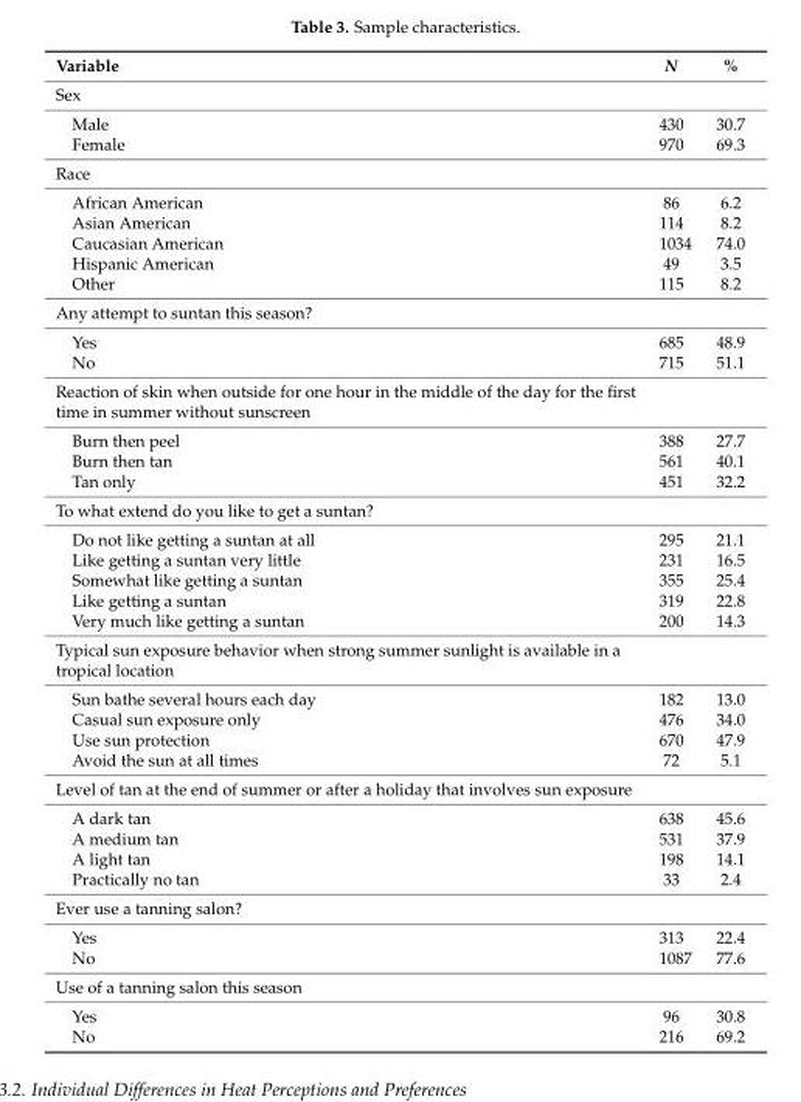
<table><thead><tr><td>Variable</td><td>N</td><td>%</td></tr></thead><tbody><tr><td colspan="3">Sex</td></tr><tr><td>Male</td><td>430</td><td>30.7</td></tr><tr><td>Female</td><td>970</td><td>69.3</td></tr><tr><td colspan="3">Race</td></tr><tr><td>African American</td><td>86</td><td>6.2</td></tr><tr><td>Asian American</td><td>114</td><td>8.2</td></tr><tr><td>Caucasian American</td><td>1034</td><td>74.0</td></tr><tr><td>Hispanic American</td><td>49</td><td>3.5</td></tr><tr><td>Other</td><td>115</td><td>8.2</td></tr><tr><td colspan="3">Any attempt to suntan this season?</td></tr><tr><td>Yes</td><td>685</td><td>48.9</td></tr><tr><td>No</td><td>715</td><td>51.1</td></tr><tr><td colspan="3">Reaction of skin when outside for one hour in the middle of the day for the first time in summer without sunscreen</td></tr><tr><td>Burn then peel</td><td>388</td><td>27.7</td></tr><tr><td>Burn then tan</td><td>561</td><td>40.1</td></tr><tr><td>Tan only</td><td>451</td><td>32.2</td></tr><tr><td colspan="3">To what extend do you like to get a suntan?</td></tr><tr><td>Do not like getting a suntan at all</td><td>295</td><td>21.1</td></tr><tr><td>Like getting a suntan very little</td><td>231</td><td>16.5</td></tr><tr><td>Somewhat like getting a suntan</td><td>355</td><td>25.4</td></tr><tr><td>Like getting a suntan</td><td>319</td><td>22.8</td></tr><tr><td>Very much like getting a suntan</td><td>200</td><td>14.3</td></tr><tr><td colspan="3">Typical sun exposure behavior when strong summer sunlight is available in a tropical location</td></tr><tr><td>Sun bathe several hours each day</td><td>182</td><td>13.0</td></tr><tr><td>Casual sun exposure only</td><td>476</td><td>34.0</td></tr><tr><td>Use sun protection</td><td>670</td><td>47.9</td></tr><tr><td>Avoid the sun at all times</td><td>72</td><td>5.1</td></tr><tr><td colspan="3">Level of tan at the end of summer or after a holiday that involves sun exposure</td></tr><tr><td>A dark tan</td><td>638</td><td>45.6</td></tr><tr><td>A medium tan</td><td>531</td><td>37.9</td></tr><tr><td>A light tan</td><td>198</td><td>14.1</td></tr><tr><td>Practically no tan</td><td>33</td><td>2.4</td></tr><tr><td colspan="3">Ever use a tanning salon?</td></tr><tr><td>Yes</td><td>313</td><td>22.4</td></tr><tr><td>No</td><td>1087</td><td>77.6</td></tr><tr><td colspan="3">Use of a tanning salon this season</td></tr><tr><td>Yes</td><td>96</td><td>30.8</td></tr><tr><td>No</td><td>216</td><td>69.2</td></tr></tbody></table>